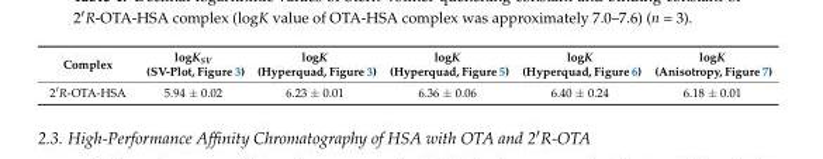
<table><thead><tr><td>Complex</td><td>logK<sub>SV</sub> (SV-Plot, Figure 3)</td><td>logK (Hyperquad, Figure 3)</td><td>logK (Hyperquad, Figure 5)</td><td>logK (Hyperquad, Figure 6)</td><td>logK (Anisotropy, Figure 7)</td></tr></thead><tbody><tr><td>2′R-OTA-HSA</td><td>5.94 ± 0.02</td><td>6.23 ± 0.01</td><td>6.36 ± 0.06</td><td>6.40 ± 0.24</td><td>6.18 ± 0.01</td></tr></tbody></table>